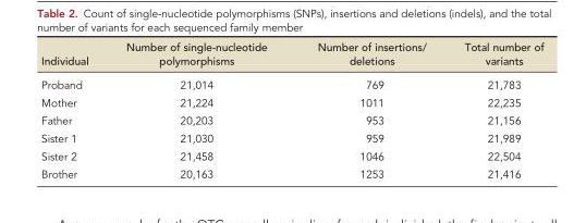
<table><thead><tr><td>Individual</td><td>Number of single-nucleotide polymorphisms</td><td>Number of insertions/ deletions</td><td>Total number of variants</td></tr></thead><tbody><tr><td>Proband</td><td>21,014</td><td>769</td><td>21,783</td></tr><tr><td>Mother</td><td>21,224</td><td>1011</td><td>22,235</td></tr><tr><td>Father</td><td>20,203</td><td>953</td><td>21,156</td></tr><tr><td>Sister 1</td><td>21,030</td><td>959</td><td>21,989</td></tr><tr><td>Sister 2</td><td>21,458</td><td>1046</td><td>22,504</td></tr><tr><td>Brother</td><td>20,163</td><td>1253</td><td>21,416</td></tr></tbody></table>